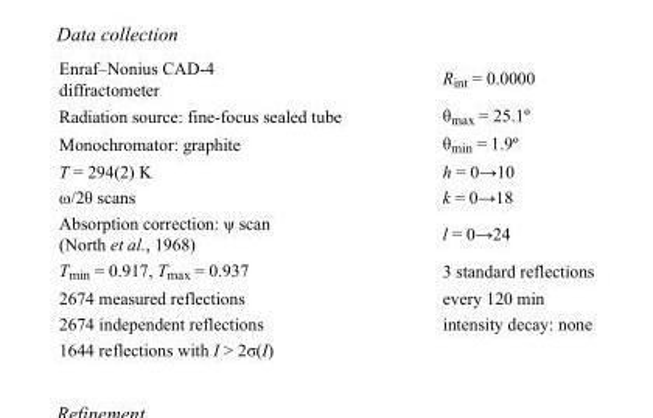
<table><tbody><tr><td>Enraf–Nonius CAD-4 diffractometer</td><td>R<sub>int</sub> = 0.0000</td></tr><tr><td>Radiation source: fine-focus sealed tube</td><td>θ<sub>max</sub> = 25.1º</td></tr><tr><td>Monochromator: graphite</td><td>θ<sub>min</sub> = 1.9º</td></tr><tr><td>T = 294(2) K</td><td>h = 0→10</td></tr><tr><td>ω/2θ scans</td><td>k = 0→18</td></tr><tr><td>Absorption correction: ψ scan (North et al., 1968)</td><td>l = 0→24</td></tr><tr><td>T<sub>min</sub> = 0.917, T<sub>max</sub> = 0.937</td><td>3 standard reflections</td></tr><tr><td>2674 measured reflections</td><td>every 120 min</td></tr><tr><td>2674 independent reflections</td><td>intensity decay: none</td></tr><tr><td>1644 reflections with I &gt; 2σ(I)</td><td></td></tr></tbody></table>